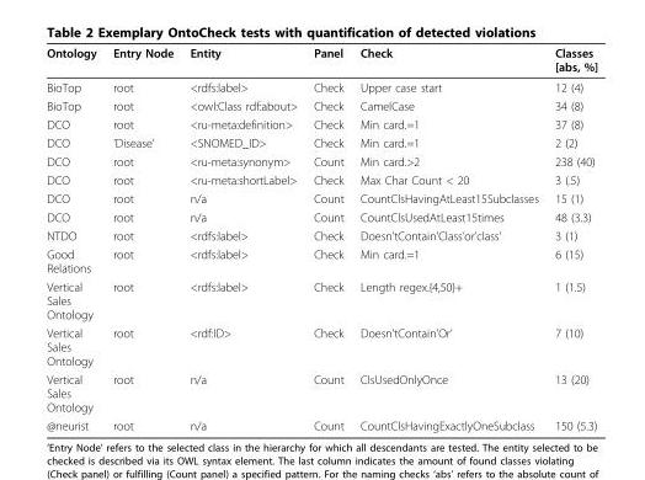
<table><thead><tr><td>Ontology</td><td>Entry Node</td><td>Entity</td><td>Panel</td><td>Check</td><td>Classes [abs, %]</td></tr></thead><tbody><tr><td>BioTop</td><td>root</td><td>&lt;rdfs:label&gt;</td><td>Check</td><td>Upper case start</td><td>12 (4)</td></tr><tr><td>BioTop</td><td>root</td><td>&lt;owl:Class rdf:about&gt;</td><td>Check</td><td>CamelCase</td><td>34 (8)</td></tr><tr><td>DCO</td><td>root</td><td>&lt;ru-meta:definition&gt;</td><td>Check</td><td>Min card.=1</td><td>37 (8)</td></tr><tr><td>DCO</td><td>’Disease’</td><td>&lt;SNOMED_ID&gt;</td><td>Check</td><td>Min card.=1</td><td>2 (2)</td></tr><tr><td>DCO</td><td>root</td><td>&lt;ru-meta:synonym&gt;</td><td>Count</td><td>Min card.&gt;2</td><td>238 (40)</td></tr><tr><td>DCO</td><td>root</td><td>&lt;ru-meta:shortLabel&gt;</td><td>Check</td><td>Max Char Count &lt; 20</td><td>3 (.5)</td></tr><tr><td>DCO</td><td>root</td><td>n/a</td><td>Count</td><td>CountClsHavingAtLeast15Subclasses</td><td>15 (1)</td></tr><tr><td>DCO</td><td>root</td><td>n/a</td><td>Count</td><td>CountClsUsedAtLeast15times</td><td>48 (3.3)</td></tr><tr><td>NTDO</td><td>root</td><td>&lt;rdfs:label&gt;</td><td>Check</td><td>Doesn’tContain’Class’or’class’</td><td>3 (1)</td></tr><tr><td>Good Relations</td><td>root</td><td>&lt;rdfs:label&gt;</td><td>Check</td><td>Min card.=1</td><td>6 (15)</td></tr><tr><td>Vertical Sales Ontology</td><td>root</td><td>&lt;rdfs:label&gt;</td><td>Check</td><td>Length regex.{4,50}+</td><td>1 (1.5)</td></tr><tr><td>Vertical Sales Ontology</td><td>root</td><td>&lt;rdf:ID&gt;</td><td>Check</td><td>Doesn’tContain’Or’</td><td>7 (10)</td></tr><tr><td>Vertical Sales Ontology</td><td>root</td><td>n/a</td><td>Count</td><td>ClsUsedOnlyOnce</td><td>13 (20)</td></tr><tr><td>@neurist</td><td>root</td><td>n/a</td><td>Count</td><td>CountClsHavingExactlyOneSubclass</td><td>150 (5.3)</td></tr></tbody></table>